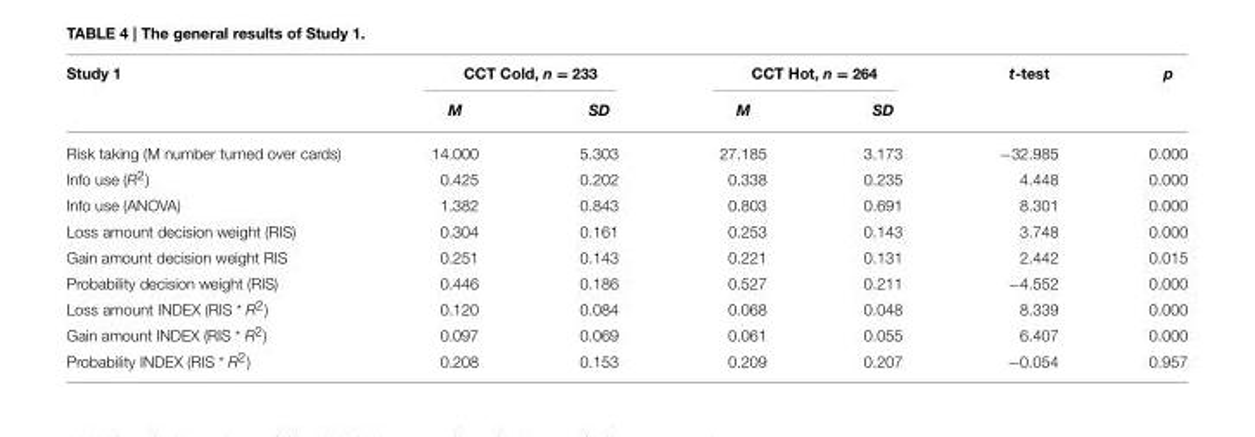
<table><thead><tr><td rowspan="2">Study 1</td><td colspan="2">CCT Cold, n = 233</td><td colspan="2">CCT Hot, n = 264</td><td rowspan="2">t-test</td><td rowspan="2">p</td></tr><tr><td>M</td><td>SD</td><td>M</td><td>SD</td></tr></thead><tbody><tr><td>Risk taking (M number turned over cards)</td><td>14.000</td><td>5.303</td><td>27.185</td><td>3.173</td><td>−32.985</td><td>0.000</td></tr><tr><td>Info use (R<sup>2</sup>)</td><td>0.425</td><td>0.202</td><td>0.338</td><td>0.235</td><td>4.448</td><td>0.000</td></tr><tr><td>Info use (ANOVA)</td><td>1.382</td><td>0.843</td><td>0.803</td><td>0.691</td><td>8.301</td><td>0.000</td></tr><tr><td>Loss amount decision weight (RIS)</td><td>0.304</td><td>0.161</td><td>0.253</td><td>0.143</td><td>3.748</td><td>0.000</td></tr><tr><td>Gain amount decision weight RIS</td><td>0.251</td><td>0.143</td><td>0.221</td><td>0.131</td><td>2.442</td><td>0.015</td></tr><tr><td>Probability decision weight (RIS)</td><td>0.446</td><td>0.186</td><td>0.527</td><td>0.211</td><td>−4.552</td><td>0.000</td></tr><tr><td>Loss amount INDEX (RIS * R<sup>2</sup>)</td><td>0.120</td><td>0.084</td><td>0.068</td><td>0.048</td><td>8.339</td><td>0.000</td></tr><tr><td>Gain amount INDEX (RIS * R<sup>2</sup>)</td><td>0.097</td><td>0.069</td><td>0.061</td><td>0.055</td><td>6.407</td><td>0.000</td></tr><tr><td>Probability INDEX (RIS * R<sup>2</sup>)</td><td>0.208</td><td>0.153</td><td>0.209</td><td>0.207</td><td>−0.054</td><td>0.957</td></tr></tbody></table>